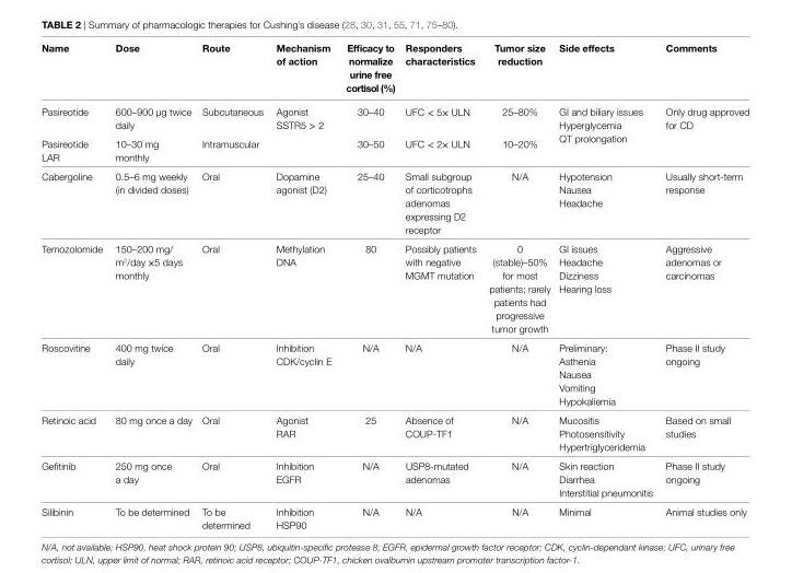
<table><thead><tr><td>Name</td><td>Dose</td><td>Route</td><td>Mechanism of action</td><td>efficacy to normalize urine free cortisol (%)</td><td>Responders characteristics</td><td>Tumor size reduction</td><td>Side effects</td><td>Comments</td></tr></thead><tbody><tr><td>Pasireotide</td><td>600–900 µg twice daily</td><td>Subcutaneous</td><td rowspan="2">Agonist SSTR5 &gt; 2</td><td>30–40</td><td>UFC &lt; 5× ULN</td><td>25–80%</td><td rowspan="2">GI and biliary issues Hyperglycemia QT prolongation</td><td rowspan="2">Only drug approved for CD</td></tr><tr><td>Pasireotide LAR</td><td>10–30 mg monthly</td><td>Intramuscular</td><td>30–50</td><td>UFC &lt; 2× ULN</td><td>10–20%</td></tr><tr><td>Cabergoline</td><td>0.5–6 mg weekly (in divided doses)</td><td>Oral</td><td>Dopamine agonist (D2)</td><td>25–40</td><td>Small subgroup of corticotrophs adenomas expressing D2 receptor</td><td>N/A</td><td>Hypotension Nausea Headache</td><td>Usually short-term response</td></tr><tr><td>Temozolomide</td><td>150–200 mg/ m<sup>2</sup>/day ×5 days monthly</td><td>Oral</td><td>Methylation DNA</td><td>80</td><td>Possibly patients with negative MGMT mutation</td><td>0 (stable)–50% for most patients; rarely patients had progressive tumor growth</td><td>GI issues Headache Dizziness Hearing loss</td><td>Aggressive adenomas or carcinomas</td></tr><tr><td>Roscovitine</td><td>400 mg twice daily</td><td>Oral</td><td>Inhibition CDK/cyclin E</td><td>N/A</td><td>N/A</td><td>N/A</td><td>Preliminary: Asthenia Nausea Vomiting Hypokaliemia</td><td>Phase II study ongoing</td></tr><tr><td>Retinoic acid</td><td>80 mg once a day</td><td>Oral</td><td>Agonist RAR</td><td>25</td><td>Absence of COUP-TF1</td><td>N/A</td><td>Mucositis Photosensitivity Hypertriglyceridemia</td><td>Based on small studies</td></tr><tr><td>Gefitinib</td><td>250 mg once a day</td><td>Oral</td><td>Inhibition EGFR</td><td>N/A</td><td>USP8-mutated adenomas</td><td>N/A</td><td>Skin reaction Diarrhea Interstitial pneumonitis</td><td>Phase II study ongoing</td></tr><tr><td>Silibinin</td><td>To be determined</td><td>To be determined</td><td>Inhibition HSP90</td><td>N/A</td><td>N/A</td><td>N/A</td><td>Minimal</td><td>Animal studies only</td></tr></tbody></table>